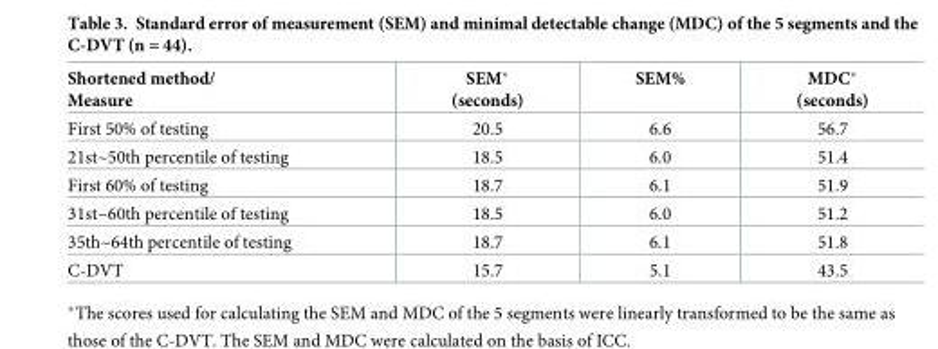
<table><thead><tr><td>Shortened method/ Measure</td><td>SEM* (seconds)</td><td>SEM%</td><td>MDC* (seconds)</td></tr></thead><tbody><tr><td>First 50% of testing</td><td>20.5</td><td>6.6</td><td>56.7</td></tr><tr><td>21st~50th percentile of testing</td><td>18.5</td><td>6.0</td><td>51.4</td></tr><tr><td>First 60% of testing</td><td>18.7</td><td>6.1</td><td>51.9</td></tr><tr><td>31st~60th percentile of testing</td><td>18.5</td><td>6.0</td><td>51.2</td></tr><tr><td>35th~64th percentile of testing</td><td>18.7</td><td>6.1</td><td>51.8</td></tr><tr><td>C-DVT</td><td>15.7</td><td>5.1</td><td>43.5</td></tr></tbody></table>